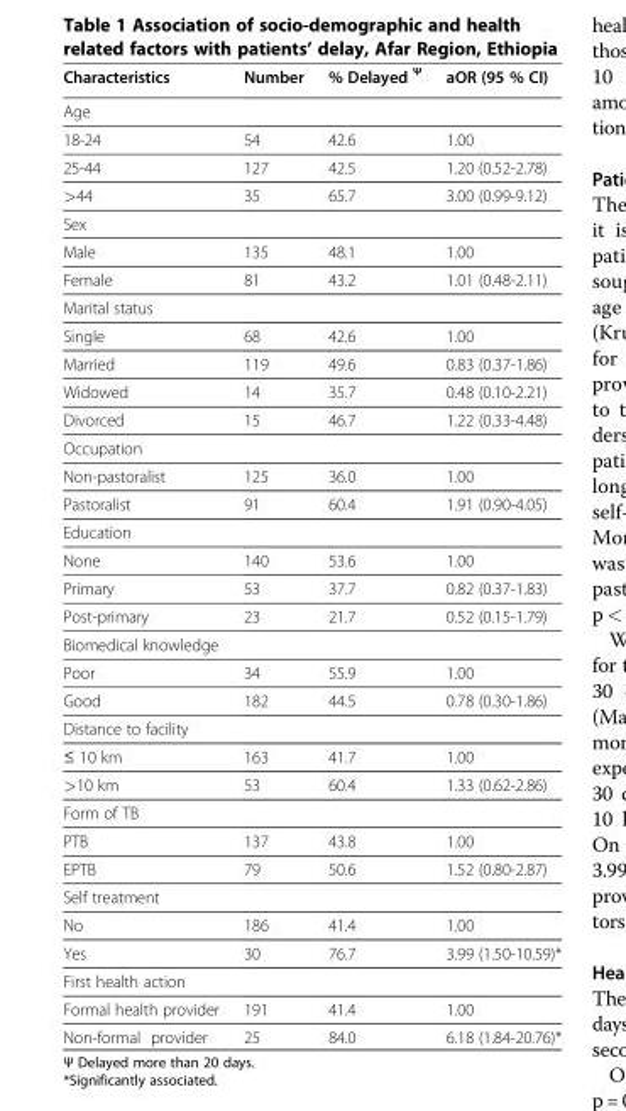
<table><thead><tr><td>Characteristics</td><td>Number</td><td>% Delayed <sup>Ψ</sup></td><td>aOR (95 % CI)</td></tr></thead><tbody><tr><td colspan="4">Age</td></tr><tr><td>18-24</td><td>54</td><td>42.6</td><td>1.00</td></tr><tr><td>25-44</td><td>127</td><td>42.5</td><td>1.20 (0.52-2.78)</td></tr><tr><td>&gt;44</td><td>35</td><td>65.7</td><td>3.00 (0.99-9.12)</td></tr><tr><td colspan="4">Sex</td></tr><tr><td>Male</td><td>135</td><td>48.1</td><td>1.00</td></tr><tr><td>Female</td><td>81</td><td>43.2</td><td>1.01 (0.48-2.11)</td></tr><tr><td colspan="4">Marital status</td></tr><tr><td>Single</td><td>68</td><td>42.6</td><td>1.00</td></tr><tr><td>Married</td><td>119</td><td>49.6</td><td>0.83 (0.37-1.86)</td></tr><tr><td>Widowed</td><td>14</td><td>35.7</td><td>0.48 (0.10-2.21)</td></tr><tr><td>Divorced</td><td>15</td><td>46.7</td><td>1.22 (0.33-4.48)</td></tr><tr><td colspan="4">Occupation</td></tr><tr><td>Non-pastoralist</td><td>125</td><td>36.0</td><td>1.00</td></tr><tr><td>Pastoralist</td><td>91</td><td>60.4</td><td>1.91 (0.90-4.05)</td></tr><tr><td colspan="4">Education</td></tr><tr><td>None</td><td>140</td><td>53.6</td><td>1.00</td></tr><tr><td>Primary</td><td>53</td><td>37.7</td><td>0.82 (0.37-1.83)</td></tr><tr><td>Post-primary</td><td>23</td><td>21.7</td><td>0.52 (0.15-1.79)</td></tr><tr><td colspan="4">Biomedical knowledge</td></tr><tr><td>Poor</td><td>34</td><td>55.9</td><td>1.00</td></tr><tr><td>Good</td><td>182</td><td>44.5</td><td>0.78 (0.30-1.86)</td></tr><tr><td colspan="4">Distance to facility</td></tr><tr><td>≤ 10 km</td><td>163</td><td>41.7</td><td>1.00</td></tr><tr><td>&gt;10 km</td><td>53</td><td>60.4</td><td>1.33 (0.62-2.86)</td></tr><tr><td colspan="4">Form of TB</td></tr><tr><td>PTB</td><td>137</td><td>43.8</td><td>1.00</td></tr><tr><td>EPTB</td><td>79</td><td>50.6</td><td>1.52 (0.80-2.87)</td></tr><tr><td colspan="4">Self treatment</td></tr><tr><td>No</td><td>186</td><td>41.4</td><td>1.00</td></tr><tr><td>Yes</td><td>30</td><td>76.7</td><td>3.99 (1.50-10.59)*</td></tr><tr><td colspan="4">First health action</td></tr><tr><td>Formal health provider</td><td>191</td><td>41.4</td><td>1.00</td></tr><tr><td>Non-formal provider</td><td>25</td><td>84.0</td><td>6.18 (1.84-20.76)*</td></tr></tbody></table>